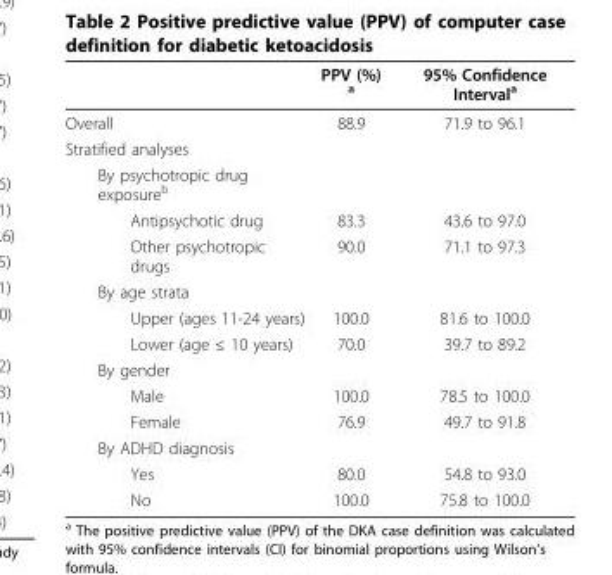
<table><thead><tr><td></td><td>PPV (%) <sup>a</sup></td><td>95% Confidence Interval<sup>a</sup></td></tr></thead><tbody><tr><td>Overall</td><td>88.9</td><td>71.9 to 96.1</td></tr><tr><td colspan="3">Stratified analyses</td></tr><tr><td colspan="3">By psychotropic drug exposure<sup>b</sup></td></tr><tr><td>Antipsychotic drug</td><td>83.3</td><td>43.6 to 97.0</td></tr><tr><td>Other psychotropic drugs</td><td>90.0</td><td>71.1 to 97.3</td></tr><tr><td colspan="3">By age strata</td></tr><tr><td>Upper (ages 11-24 years)</td><td>100.0</td><td>81.6 to 100.0</td></tr><tr><td>Lower (age ≤ 10 years)</td><td>70.0</td><td>39.7 to 89.2</td></tr><tr><td colspan="3">By gender</td></tr><tr><td>Male</td><td>100.0</td><td>78.5 to 100.0</td></tr><tr><td>Female</td><td>76.9</td><td>49.7 to 91.8</td></tr><tr><td colspan="3">By ADHD diagnosis</td></tr><tr><td>Yes</td><td>80.0</td><td>54.8 to 93.0</td></tr><tr><td>No</td><td>100.0</td><td>75.8 to 100.0</td></tr></tbody></table>